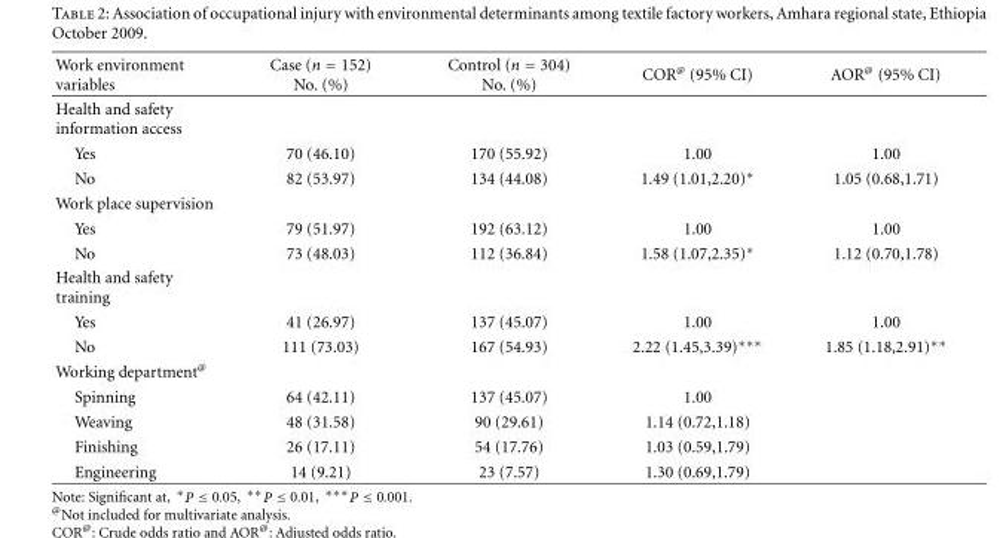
<table><thead><tr><td>Work environment variables</td><td>Case (n = 152) No. (%)</td><td>Control (n = 304) No. (%)</td><td>COR<sup>@</sup> (95% CI)</td><td>AOR<sup>@</sup> (95% CI)</td></tr></thead><tbody><tr><td colspan="5">Health and safety information access</td></tr><tr><td>Yes</td><td>70 (46.10)</td><td>170 (55.92)</td><td>1.00</td><td>1.00</td></tr><tr><td>No</td><td>82 (53.97)</td><td>134 (44.08)</td><td>1.49 (1.01,2.20)∗</td><td>1.05 (0.68,1.71)</td></tr><tr><td colspan="5">Work place supervision</td></tr><tr><td>Yes</td><td>79 (51.97)</td><td>192 (63.12)</td><td>1.00</td><td>1.00</td></tr><tr><td>No</td><td>73 (48.03)</td><td>112 (36.84)</td><td>1.58 (1.07,2.35)∗</td><td>1.12 (0.70,1.78)</td></tr><tr><td colspan="5">Health and safety training</td></tr><tr><td>Yes</td><td>41 (26.97)</td><td>137 (45.07)</td><td>1.00</td><td>1.00</td></tr><tr><td>No</td><td>111 (73.03)</td><td>167 (54.93)</td><td>2.22 (1.45,3.39)∗∗∗</td><td>1.85 (1.18,2.91)∗∗</td></tr><tr><td colspan="5">Working department<sup>@</sup></td></tr><tr><td>Spinning</td><td>64 (42.11)</td><td>137 (45.07)</td><td>1.00</td><td></td></tr><tr><td>Weaving</td><td>48 (31.58)</td><td>90 (29.61)</td><td>1.14 (0.72,1.18)</td><td></td></tr><tr><td>Finishing</td><td>26 (17.11)</td><td>54 (17.76)</td><td>1.03 (0.59,1.79)</td><td></td></tr><tr><td>Engineering</td><td>14 (9.21)</td><td>23 (7.57)</td><td>1.30 (0.69,1.79)</td><td></td></tr></tbody></table>